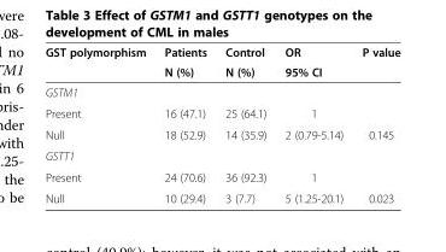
<table><thead><tr><td rowspan="2">GST polymorphism</td><td rowspan="2">Patients N (%)</td><td rowspan="2">Control N (%)</td><td rowspan="2">OR 95% CI</td><td rowspan="2">P value</td></tr><tr></tr></thead><tbody><tr><td colspan="5">GSTM1</td></tr><tr><td>Present</td><td>16 (47.1)</td><td>25 (64.1)</td><td>1</td><td></td></tr><tr><td>Null</td><td>18 (52.9)</td><td>14 (35.9)</td><td>2 (0.79-5.14)</td><td>0.145</td></tr><tr><td colspan="5">GSTT1</td></tr><tr><td>Present</td><td>24 (70.6)</td><td>36 (92.3)</td><td>1</td><td></td></tr><tr><td>Null</td><td>10 (29.4)</td><td>3 (7.7)</td><td>5 (1.25-20.1)</td><td>0.023</td></tr></tbody></table>